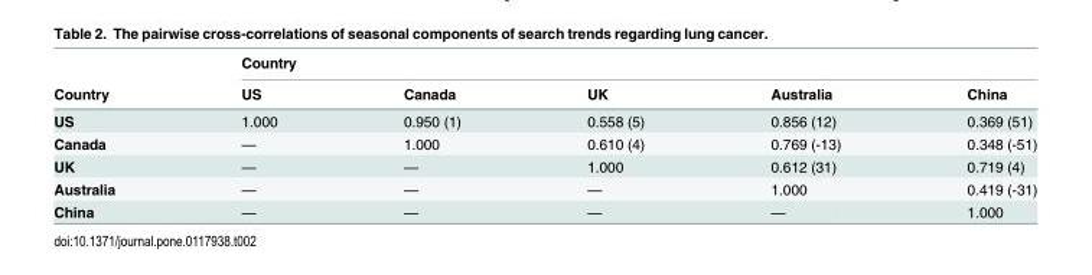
<table><thead><tr><td rowspan="2">Country</td><td colspan="5">Country</td></tr><tr><td>US</td><td>Canada</td><td>UK</td><td>Australia</td><td>China</td></tr></thead><tbody><tr><td>US</td><td>1.000</td><td>0.950 (1)</td><td>0.558 (5)</td><td>0.856 (12)</td><td>0.369 (51)</td></tr><tr><td>Canada</td><td>—</td><td>1.000</td><td>0.610 (4)</td><td>0.769 (-13)</td><td>0.348 (-51)</td></tr><tr><td>UK</td><td>—</td><td>—</td><td>1.000</td><td>0.612 (31)</td><td>0.719 (4)</td></tr><tr><td>Australia</td><td>—</td><td>—</td><td>—</td><td>1.000</td><td>0.419 (-31)</td></tr><tr><td>China</td><td>—</td><td>—</td><td>—</td><td>—</td><td>1.000</td></tr></tbody></table>